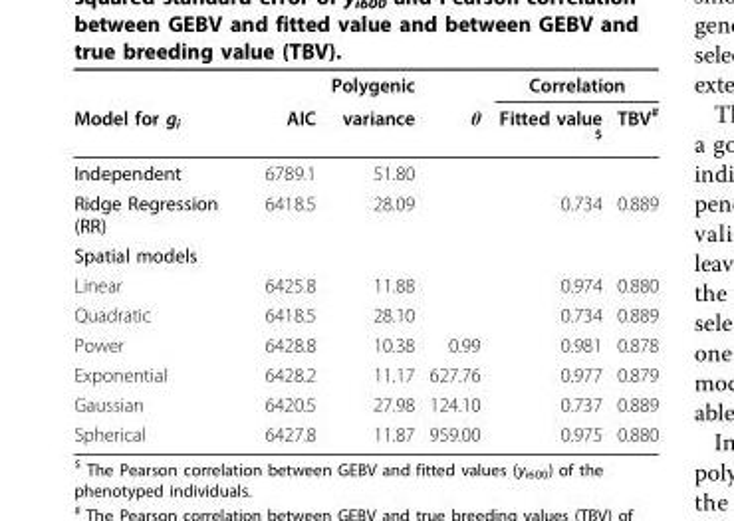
<table><thead><tr><td rowspan="2">Model for g<sub>i</sub></td><td rowspan="2">AIC</td><td rowspan="2">Polygenic variance</td><td rowspan="2">θ</td><td colspan="2">Correlation</td></tr><tr><td>Fitted value <sup>$</sup></td><td>TBV<sup>#</sup></td></tr></thead><tbody><tr><td>Independent</td><td>6789.1</td><td>51.80</td><td></td><td></td><td></td></tr><tr><td>Ridge Regression (RR)</td><td>6418.5</td><td>28.09</td><td></td><td>0.734</td><td>0.889</td></tr><tr><td colspan="6">Spatial models</td></tr><tr><td>Linear</td><td>6425.8</td><td>11.88</td><td></td><td>0.974</td><td>0.880</td></tr><tr><td>Quadratic</td><td>6418.5</td><td>28.10</td><td></td><td>0.734</td><td>0.889</td></tr><tr><td>Power</td><td>6428.8</td><td>10.38</td><td>0.99</td><td>0.981</td><td>0.878</td></tr><tr><td>Exponential</td><td>6428.2</td><td>11.17</td><td>627.76</td><td>0.977</td><td>0.879</td></tr><tr><td>Gaussian</td><td>6420.5</td><td>27.98</td><td>124.10</td><td>0.737</td><td>0.889</td></tr><tr><td>Spherical</td><td>6427.8</td><td>11.87</td><td>959.00</td><td>0.975</td><td>0.880</td></tr></tbody></table>